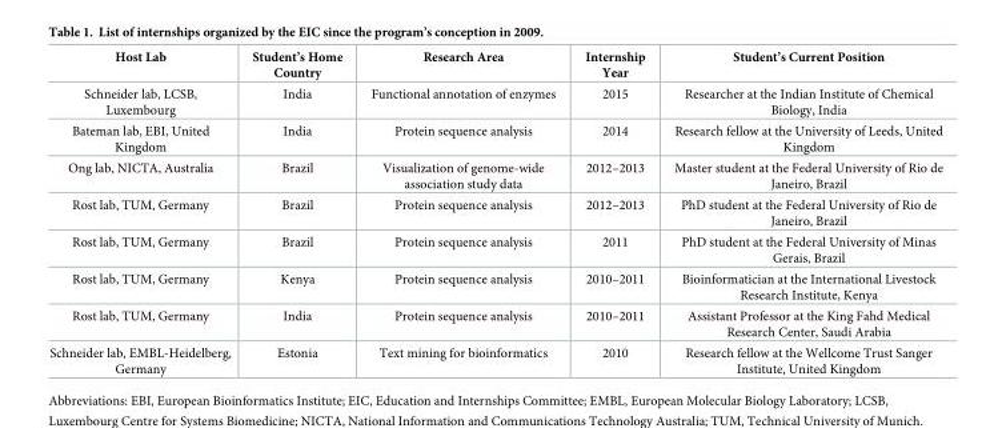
<table><thead><tr><td>Host Lab</td><td>Student’s Home Country</td><td>Research Area</td><td>Internship Year</td><td>Student’s Current Position</td></tr></thead><tbody><tr><td>Schneider lab, LCSB, Luxembourg</td><td>India</td><td>Functional annotation of enzymes</td><td>2015</td><td>Researcher at the Indian Institute of Chemical Biology, India</td></tr><tr><td>Bateman lab, EBI, United Kingdom</td><td>India</td><td>Protein sequence analysis</td><td>2014</td><td>Research fellow at the University of Leeds, United Kingdom</td></tr><tr><td>Ong lab, NICTA, Australia</td><td>Brazil</td><td>Visualization of genome-wide association study data</td><td>2012–2013</td><td>Master student at the Federal University of Rio de Janeiro, Brazil</td></tr><tr><td>Rost lab, TUM, Germany</td><td>Brazil</td><td>Protein sequence analysis</td><td>2012–2013</td><td>PhD student at the Federal University of Rio de Janeiro, Brazil</td></tr><tr><td>Rost lab, TUM, Germany</td><td>Brazil</td><td>Protein sequence analysis</td><td>2011</td><td>PhD student at the Federal University of Minas Gerais, Brazil</td></tr><tr><td>Rost lab, TUM, Germany</td><td>Kenya</td><td>Protein sequence analysis</td><td>2010–2011</td><td>Bioinformatician at the International Livestock Research Institute, Kenya</td></tr><tr><td>Rost lab, TUM, Germany</td><td>India</td><td>Protein sequence analysis</td><td>2010–2011</td><td>Assistant Professor at the King Fahd Medical Research Center, Saudi Arabia</td></tr><tr><td>Schneider lab, EMBL-Heidelberg, Germany</td><td>Estonia</td><td>Text mining for bioinformatics</td><td>2010</td><td>Research fellow at the Wellcome Trust Sanger Institute, United Kingdom</td></tr></tbody></table>